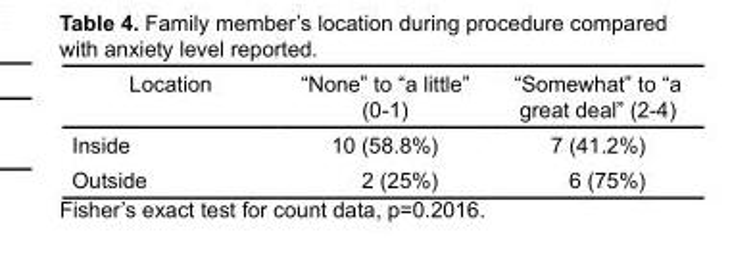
<table><thead><tr><td>Location</td><td>“None” to “a little” (0-1)</td><td>“Somewhat” to “a great deal” (2-4)</td></tr></thead><tbody><tr><td>Inside</td><td>10 (58.8%)</td><td>7 (41.2%)</td></tr><tr><td>Outside</td><td>2 (25%)</td><td>6 (75%)</td></tr></tbody></table>